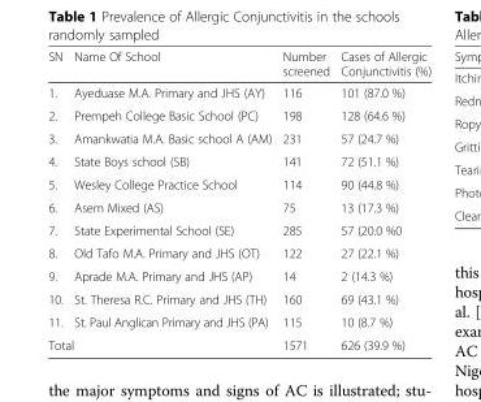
<table><thead><tr><td>SN</td><td>Name Of School</td><td>Number screened</td><td>Cases of Allergic Conjunctivitis (%)</td></tr></thead><tbody><tr><td>1.</td><td>Ayeduase M.A. Primary and JHS (AY)</td><td>116</td><td>101 (87.0 %)</td></tr><tr><td>2.</td><td>Prempeh College Basic School (PC)</td><td>198</td><td>128 (64.6 %)</td></tr><tr><td>3.</td><td>Amankwatia M.A. Basic school A (AM)</td><td>231</td><td>57 (24.7 %)</td></tr><tr><td>4.</td><td>State Boys school (SB)</td><td>141</td><td>72 (51.1 %)</td></tr><tr><td>5.</td><td>Wesley College Practice School</td><td>114</td><td>90 (44.8 %)</td></tr><tr><td>6.</td><td>Asem Mixed (AS)</td><td>75</td><td>13 (17.3 %)</td></tr><tr><td>7.</td><td>State Experimental School (SE)</td><td>285</td><td>57 (20.0 %0</td></tr><tr><td>8.</td><td>Old Tafo M.A. Primary and JHS (OT)</td><td>122</td><td>27 (22.1 %)</td></tr><tr><td>9.</td><td>Aprade M.A. Primary and JHS (AP)</td><td>14</td><td>2 (14.3 %)</td></tr><tr><td>10.</td><td>St. Theresa R.C. Primary and JHS (TH)</td><td>160</td><td>69 (43.1 %)</td></tr><tr><td>11.</td><td>St. Paul Anglican Primary and JHS (PA)</td><td>115</td><td>10 (8.7 %)</td></tr><tr><td colspan="2">Total</td><td>1571</td><td>626 (39.9 %)</td></tr></tbody></table>